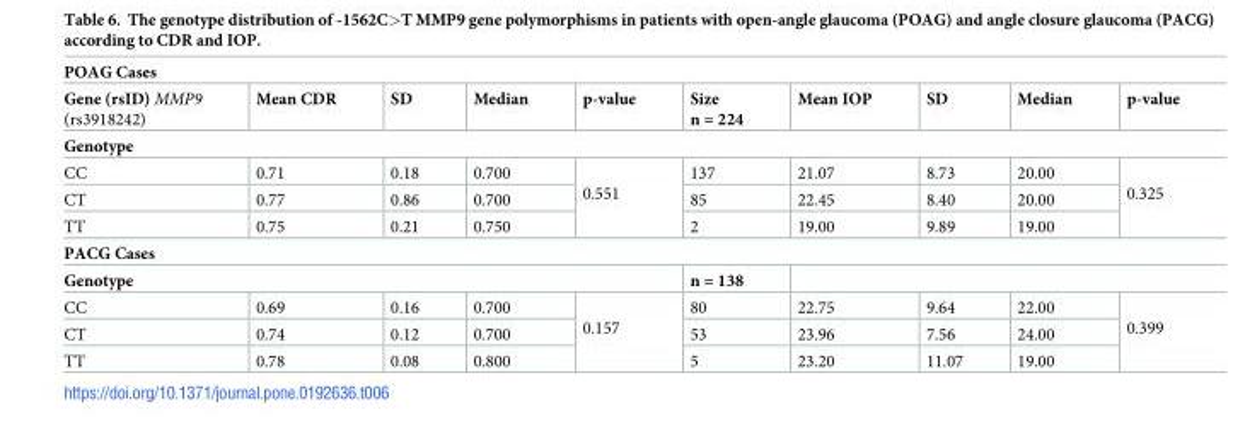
<table><tbody><tr><td colspan="10">POAG Cases</td></tr><tr><td>Gene (rsID) MMP9 (rs3918242)</td><td>Mean CDR</td><td>SD</td><td>Median</td><td>p-value</td><td>Size n = 224</td><td>Mean IOP</td><td>SD</td><td>Median</td><td>p-value</td></tr><tr><td colspan="10">Genotype</td></tr><tr><td>CC</td><td>0.71</td><td>0.18</td><td>0.700</td><td rowspan="3">0.551</td><td>137</td><td>21.07</td><td>8.73</td><td>20.00</td><td rowspan="3">0.325</td></tr><tr><td>CT</td><td>0.77</td><td>0.86</td><td>0.700</td><td>85</td><td>22.45</td><td>8.40</td><td>20.00</td></tr><tr><td>TT</td><td>0.75</td><td>0.21</td><td>0.750</td><td>2</td><td>19.00</td><td>9.89</td><td>19.00</td></tr><tr><td colspan="10">PACG Cases</td></tr><tr><td colspan="5">Genotype</td><td>n = 138</td><td colspan="4"></td></tr><tr><td>CC</td><td>0.69</td><td>0.16</td><td>0.700</td><td rowspan="3">0.157</td><td>80</td><td>22.75</td><td>9.64</td><td>22.00</td><td rowspan="3">0.399</td></tr><tr><td>CT</td><td>0.74</td><td>0.12</td><td>0.700</td><td>53</td><td>23.96</td><td>7.56</td><td>24.00</td></tr><tr><td>TT</td><td>0.78</td><td>0.08</td><td>0.800</td><td>5</td><td>23.20</td><td>11.07</td><td>19.00</td></tr></tbody></table>